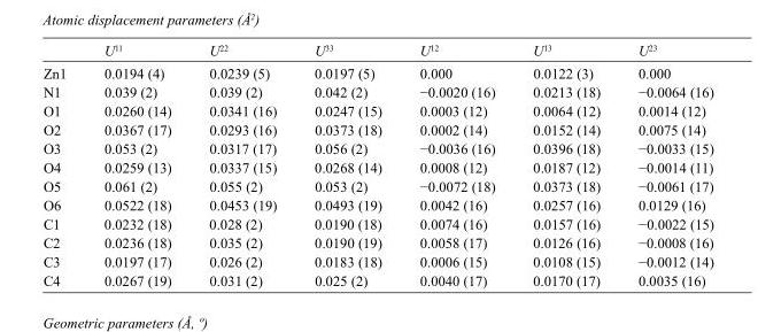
<table><thead><tr><td></td><td>U<sup>11</sup></td><td>U<sup>22</sup></td><td>U<sup>33</sup></td><td>U<sup>12</sup></td><td>U<sup>13</sup></td><td>U<sup>23</sup></td></tr></thead><tbody><tr><td>Zn1</td><td>0.0194 (4)</td><td>0.0239 (5)</td><td>0.0197 (5)</td><td>0.000</td><td>0.0122 (3)</td><td>0.000</td></tr><tr><td>N1</td><td>0.039 (2)</td><td>0.039 (2)</td><td>0.042 (2)</td><td>−0.0020 (16)</td><td>0.0213 (18)</td><td>−0.0064 (16)</td></tr><tr><td>O1</td><td>0.0260 (14)</td><td>0.0341 (16)</td><td>0.0247 (15)</td><td>0.0003 (12)</td><td>0.0064 (12)</td><td>0.0014 (12)</td></tr><tr><td>O2</td><td>0.0367 (17)</td><td>0.0293 (16)</td><td>0.0373 (18)</td><td>0.0002 (14)</td><td>0.0152 (14)</td><td>0.0075 (14)</td></tr><tr><td>O3</td><td>0.053 (2)</td><td>0.0317 (17)</td><td>0.056 (2)</td><td>−0.0036 (16)</td><td>0.0396 (18)</td><td>−0.0033 (15)</td></tr><tr><td>O4</td><td>0.0259 (13)</td><td>0.0337 (15)</td><td>0.0268 (14)</td><td>0.0008 (12)</td><td>0.0187 (12)</td><td>−0.0014 (11)</td></tr><tr><td>O5</td><td>0.061 (2)</td><td>0.055 (2)</td><td>0.053 (2)</td><td>−0.0072 (18)</td><td>0.0373 (18)</td><td>−0.0061 (17)</td></tr><tr><td>O6</td><td>0.0522 (18)</td><td>0.0453 (19)</td><td>0.0493 (19)</td><td>0.0042 (16)</td><td>0.0257 (16)</td><td>0.0129 (16)</td></tr><tr><td>C1</td><td>0.0232 (18)</td><td>0.028 (2)</td><td>0.0190 (18)</td><td>0.0074 (16)</td><td>0.0157 (16)</td><td>−0.0022 (15)</td></tr><tr><td>C2</td><td>0.0236 (18)</td><td>0.035 (2)</td><td>0.0190 (19)</td><td>0.0058 (17)</td><td>0.0126 (16)</td><td>−0.0008 (16)</td></tr><tr><td>C3</td><td>0.0197 (17)</td><td>0.026 (2)</td><td>0.0183 (18)</td><td>0.0006 (15)</td><td>0.0108 (15)</td><td>−0.0012 (14)</td></tr><tr><td>C4</td><td>0.0267 (19)</td><td>0.031 (2)</td><td>0.025 (2)</td><td>0.0040 (17)</td><td>0.0170 (17)</td><td>0.0035 (16)</td></tr></tbody></table>